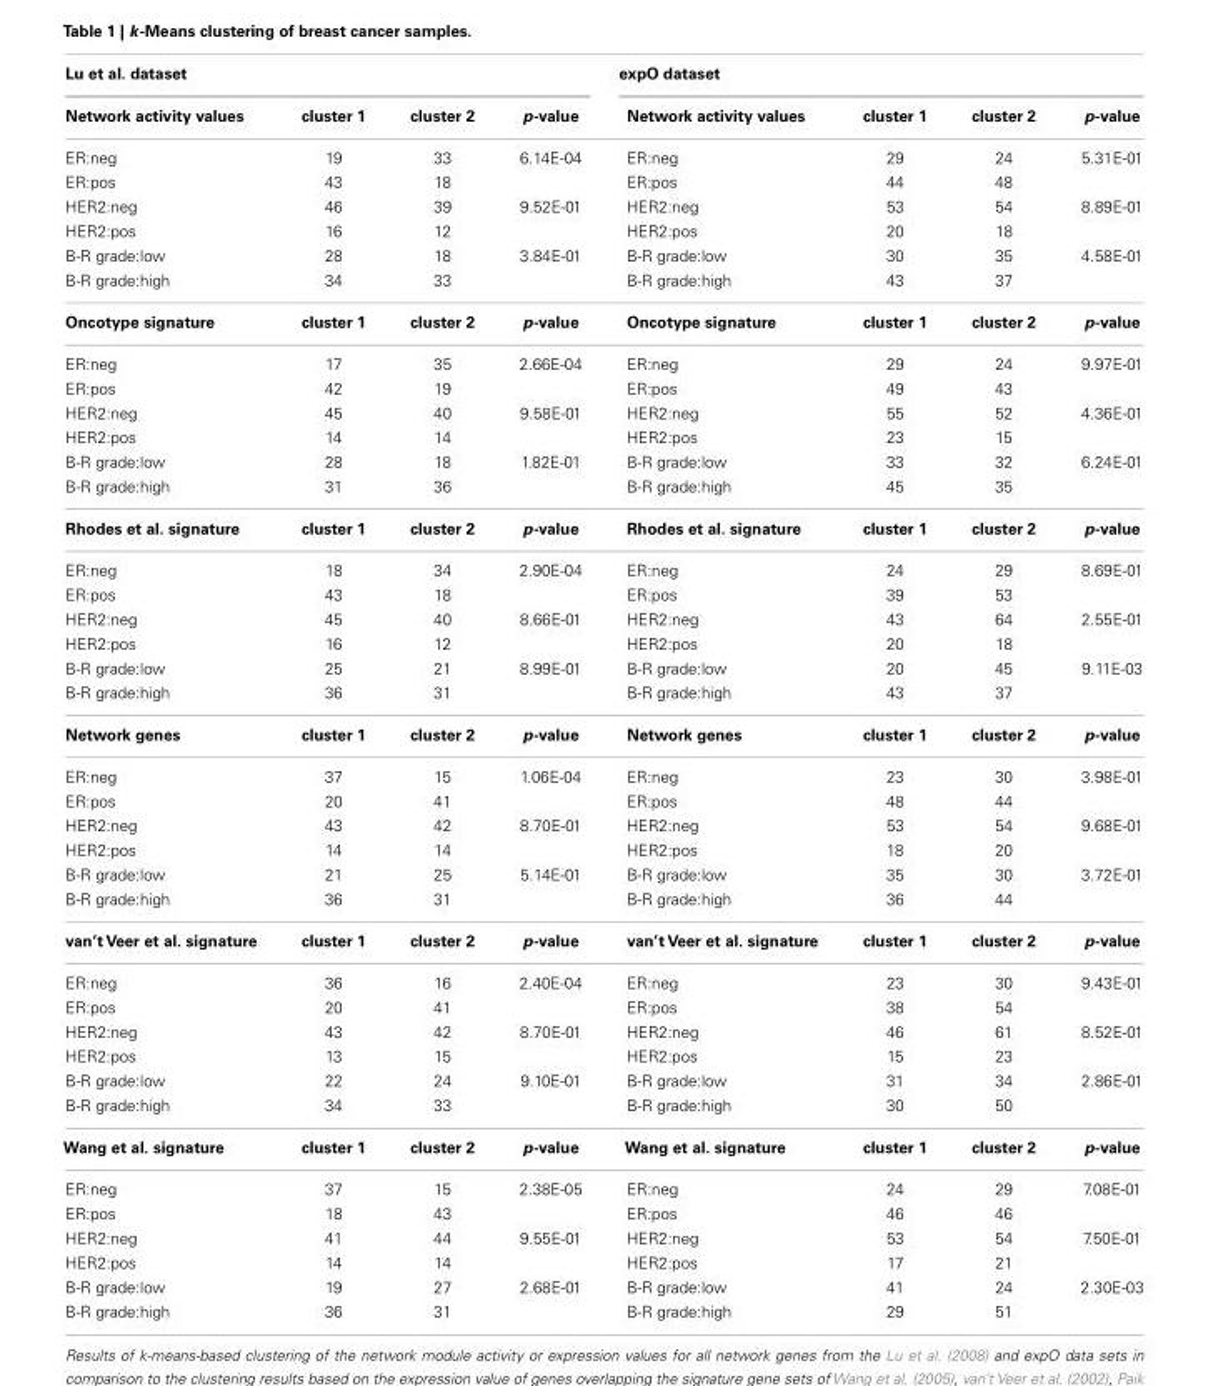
<table><thead><tr><td colspan="4">Lu et al. dataset</td><td colspan="4">expO dataset</td></tr><tr><td>Network activity values</td><td>cluster 1</td><td>cluster 2</td><td>p-value</td><td>Network activity values</td><td>cluster 1</td><td>cluster 2</td><td>p-value</td></tr></thead><tbody><tr><td>ER:neg</td><td>19</td><td>33</td><td>6.14E-04</td><td>ER:neg</td><td>29</td><td>24</td><td>5.31E-01</td></tr><tr><td>ER:pos</td><td>43</td><td>18</td><td></td><td>ER:pos</td><td>44</td><td>48</td><td></td></tr><tr><td>HER2:neg</td><td>46</td><td>39</td><td>9.52E-01</td><td>HER2:neg</td><td>53</td><td>54</td><td>8.89E-01</td></tr><tr><td>HER2:pos</td><td>16</td><td>12</td><td></td><td>HER2:pos</td><td>20</td><td>18</td><td></td></tr><tr><td>B-R grade:low</td><td>28</td><td>18</td><td>3.84E-01</td><td>B-R grade:low</td><td>30</td><td>35</td><td>4.58E-01</td></tr><tr><td>B-R grade:high</td><td>34</td><td>33</td><td></td><td>B-R grade:high</td><td>43</td><td>37</td><td></td></tr><tr><td>Oncotype signature</td><td>cluster 1</td><td>cluster 2</td><td>p-value</td><td>Oncotype signature</td><td>cluster 1</td><td>cluster 2</td><td>p-value</td></tr><tr><td>ER:neg</td><td>17</td><td>35</td><td>2.66E-04</td><td>ER:neg</td><td>29</td><td>24</td><td>9.97E-01</td></tr><tr><td>ER:pos</td><td>42</td><td>19</td><td></td><td>ER:pos</td><td>49</td><td>43</td><td></td></tr><tr><td>HER2:neg</td><td>45</td><td>40</td><td>9.58E-01</td><td>HER2:neg</td><td>55</td><td>52</td><td>4.36E-01</td></tr><tr><td>HER2:pos</td><td>14</td><td>14</td><td></td><td>HER2:pos</td><td>23</td><td>15</td><td></td></tr><tr><td>B-R grade:low</td><td>28</td><td>18</td><td>1.82E-01</td><td>B-R grade:low</td><td>33</td><td>32</td><td>6.24E-01</td></tr><tr><td>B-R grade:high</td><td>31</td><td>36</td><td></td><td>B-R grade:high</td><td>45</td><td>35</td><td></td></tr><tr><td>Rhodes et al. signature</td><td>cluster 1</td><td>cluster 2</td><td>p-value</td><td>Rhodes et al. signature</td><td>cluster 1</td><td>cluster 2</td><td>p-value</td></tr><tr><td>ER:neg</td><td>18</td><td>34</td><td>2.90E-04</td><td>ER:neg</td><td>24</td><td>29</td><td>8.69E-01</td></tr><tr><td>ER:pos</td><td>43</td><td>18</td><td></td><td>ER:pos</td><td>39</td><td>53</td><td></td></tr><tr><td>HER2:neg</td><td>45</td><td>40</td><td>8.66E-01</td><td>HER2:neg</td><td>43</td><td>64</td><td>2.55E-01</td></tr><tr><td>HER2:pos</td><td>16</td><td>12</td><td></td><td>HER2:pos</td><td>20</td><td>18</td><td></td></tr><tr><td>B-R grade:low</td><td>25</td><td>21</td><td>8.99E-01</td><td>B-R grade:low</td><td>20</td><td>45</td><td>9.11E-03</td></tr><tr><td>B-R grade:high</td><td>36</td><td>31</td><td></td><td>B-R grade:high</td><td>43</td><td>37</td><td></td></tr><tr><td>Network genes</td><td>cluster 1</td><td>cluster 2</td><td>p-value</td><td>Network genes</td><td>cluster 1</td><td>cluster 2</td><td>p-value</td></tr><tr><td>ER:neg</td><td>37</td><td>15</td><td>1.06E-04</td><td>ER:neg</td><td>23</td><td>30</td><td>3.98E-01</td></tr><tr><td>ER:pos</td><td>20</td><td>41</td><td></td><td>ER:pos</td><td>48</td><td>44</td><td></td></tr><tr><td>HER2:neg</td><td>43</td><td>42</td><td>8.70E-01</td><td>HER2:neg</td><td>53</td><td>54</td><td>9.68E-01</td></tr><tr><td>HER2:pos</td><td>14</td><td>14</td><td></td><td>HER2:pos</td><td>18</td><td>20</td><td></td></tr><tr><td>B-R grade:low</td><td>21</td><td>25</td><td>5.14E-01</td><td>B-R grade:low</td><td>35</td><td>30</td><td>3.72E-01</td></tr><tr><td>B-R grade:high</td><td>36</td><td>31</td><td></td><td>B-R grade:high</td><td>36</td><td>44</td><td></td></tr><tr><td>van’t Veer et al. signature</td><td>cluster 1</td><td>cluster 2</td><td>p-value</td><td>van’t Veer et al. signature</td><td>cluster 1</td><td>cluster 2</td><td>p-value</td></tr><tr><td>ER:neg</td><td>36</td><td>16</td><td>2.40E-04</td><td>ER:neg</td><td>23</td><td>30</td><td>9.43E-01</td></tr><tr><td>ER:pos</td><td>20</td><td>41</td><td></td><td>ER:pos</td><td>38</td><td>54</td><td></td></tr><tr><td>HER2:neg</td><td>43</td><td>42</td><td>8.70E-01</td><td>HER2:neg</td><td>46</td><td>61</td><td>8.52E-01</td></tr><tr><td>HER2:pos</td><td>13</td><td>15</td><td></td><td>HER2:pos</td><td>15</td><td>23</td><td></td></tr><tr><td>B-R grade:low</td><td>22</td><td>24</td><td>9.10E-01</td><td>B-R grade:low</td><td>31</td><td>34</td><td>2.86E-01</td></tr><tr><td>B-R grade:high</td><td>34</td><td>33</td><td></td><td>B-R grade:high</td><td>30</td><td>50</td><td></td></tr><tr><td>Wang et al. signature</td><td>cluster 1</td><td>cluster 2</td><td>p-value</td><td>Wang et al. signature</td><td>cluster 1</td><td>cluster 2</td><td>p-value</td></tr><tr><td>ER:neg</td><td>37</td><td>15</td><td>2.38E-05</td><td>ER:neg</td><td>24</td><td>29</td><td>7.08E-01</td></tr><tr><td>ER:pos</td><td>18</td><td>43</td><td></td><td>ER:pos</td><td>46</td><td>46</td><td></td></tr><tr><td>HER2:neg</td><td>41</td><td>44</td><td>9.55E-01</td><td>HER2:neg</td><td>53</td><td>54</td><td>7.50E-01</td></tr><tr><td>HER2:pos</td><td>14</td><td>14</td><td></td><td>HER2:pos</td><td>17</td><td>21</td><td></td></tr><tr><td>B-R grade:low</td><td>19</td><td>27</td><td>2.68E-01</td><td>B-R grade:low</td><td>41</td><td>24</td><td>2.30E-03</td></tr><tr><td>B-R grade:high</td><td>36</td><td>31</td><td></td><td>B-R grade:high</td><td>29</td><td>51</td><td></td></tr></tbody></table>